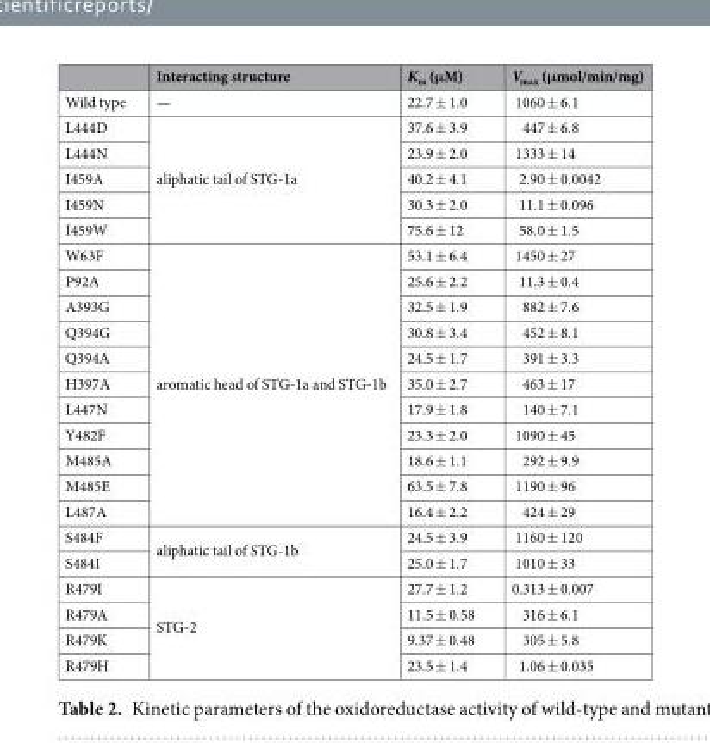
<table><thead><tr><td></td><td>Interacting structure</td><td>K<sub>m</sub> (μM)</td><td>V<sub>max</sub> (μmol/min/mg)</td></tr></thead><tbody><tr><td>Wild type</td><td>—</td><td>22.7 ± 1.0</td><td>1060 ± 6.1</td></tr><tr><td>L444D</td><td rowspan="5">aliphatic tail of STG-1a</td><td>37.6 ± 3.9</td><td>447 ± 6.8</td></tr><tr><td>L444N</td><td>23.9 ± 2.0</td><td>1333 ± 14</td></tr><tr><td>I459A</td><td>40.2 ± 4.1</td><td>2.90 ± 0.0042</td></tr><tr><td>I459N</td><td>30.3 ± 2.0</td><td>11.1 ± 0.096</td></tr><tr><td>I459W</td><td>75.6 ± 12</td><td>58.0 ± 1.5</td></tr><tr><td>W63F</td><td rowspan="11">aromatic head of STG-1a and STG-1b</td><td>53.1 ± 6.4</td><td>1450 ± 27</td></tr><tr><td>P92A</td><td>25.6 ± 2.2</td><td>11.3 ± 0.4</td></tr><tr><td>A393G</td><td>32.5 ± 1.9</td><td>882 ± 7.6</td></tr><tr><td>Q394G</td><td>30.8 ± 3.4</td><td>452 ± 8.1</td></tr><tr><td>Q394A</td><td>24.5 ± 1.7</td><td>391 ± 3.3</td></tr><tr><td>H397A</td><td>35.0 ± 2.7</td><td>463 ± 17</td></tr><tr><td>L447N</td><td>17.9 ± 1.8</td><td>140 ± 7.1</td></tr><tr><td>Y482F</td><td>23.3 ± 2.0</td><td>1090 ± 45</td></tr><tr><td>M485A</td><td>18.6 ± 1.1</td><td>292 ± 9.9</td></tr><tr><td>M485E</td><td>63.5 ± 7.8</td><td>1190 ± 96</td></tr><tr><td>L487A</td><td>16.4 ± 2.2</td><td>424 ± 29</td></tr><tr><td>S484F</td><td rowspan="2">aliphatic tail of STG-1b</td><td>24.5 ± 3.9</td><td>1160 ± 120</td></tr><tr><td>S484I</td><td>25.0 ± 1.7</td><td>1010 ± 33</td></tr><tr><td>R479I</td><td rowspan="4">STG-2</td><td>27.7 ± 1.2</td><td>0.313 ± 0.007</td></tr><tr><td>R479A</td><td>11.5 ± 0.58</td><td>316 ± 6.1</td></tr><tr><td>R479K</td><td>9.37 ± 0.48</td><td>305 ± 5.8</td></tr><tr><td>R479H</td><td>23.5 ± 1.4</td><td>1.06 ± 0.035</td></tr></tbody></table>